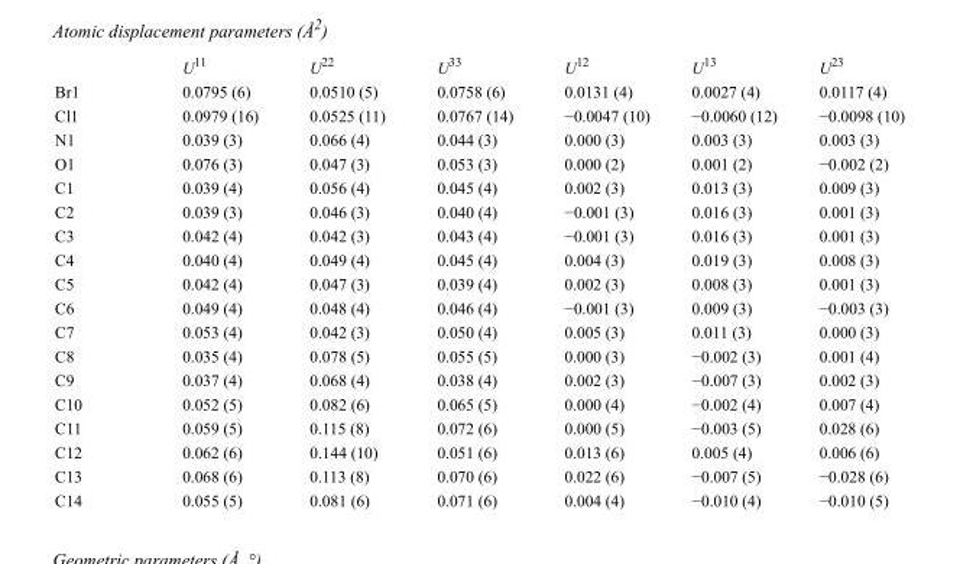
<table><thead><tr><td></td><td>U<sup>11</sup></td><td>U<sup>22</sup></td><td>U<sup>33</sup></td><td>U<sup>12</sup></td><td>U<sup>13</sup></td><td>U<sup>23</sup></td></tr></thead><tbody><tr><td>Br1</td><td>0.0795 (6)</td><td>0.0510 (5)</td><td>0.0758 (6)</td><td>0.0131 (4)</td><td>0.0027 (4)</td><td>0.0117 (4)</td></tr><tr><td>Cl1</td><td>0.0979 (16)</td><td>0.0525 (11)</td><td>0.0767 (14)</td><td>−0.0047 (10)</td><td>−0.0060 (12)</td><td>−0.0098 (10)</td></tr><tr><td>N1</td><td>0.039 (3)</td><td>0.066 (4)</td><td>0.044 (3)</td><td>0.000 (3)</td><td>0.003 (3)</td><td>0.003 (3)</td></tr><tr><td>O1</td><td>0.076 (3)</td><td>0.047 (3)</td><td>0.053 (3)</td><td>0.000 (2)</td><td>0.001 (2)</td><td>−0.002 (2)</td></tr><tr><td>C1</td><td>0.039 (4)</td><td>0.056 (4)</td><td>0.045 (4)</td><td>0.002 (3)</td><td>0.013 (3)</td><td>0.009 (3)</td></tr><tr><td>C2</td><td>0.039 (3)</td><td>0.046 (3)</td><td>0.040 (4)</td><td>−0.001 (3)</td><td>0.016 (3)</td><td>0.001 (3)</td></tr><tr><td>C3</td><td>0.042 (4)</td><td>0.042 (3)</td><td>0.043 (4)</td><td>−0.001 (3)</td><td>0.016 (3)</td><td>0.001 (3)</td></tr><tr><td>C4</td><td>0.040 (4)</td><td>0.049 (4)</td><td>0.045 (4)</td><td>0.004 (3)</td><td>0.019 (3)</td><td>0.008 (3)</td></tr><tr><td>C5</td><td>0.042 (4)</td><td>0.047 (3)</td><td>0.039 (4)</td><td>0.002 (3)</td><td>0.008 (3)</td><td>0.001 (3)</td></tr><tr><td>C6</td><td>0.049 (4)</td><td>0.048 (4)</td><td>0.046 (4)</td><td>−0.001 (3)</td><td>0.009 (3)</td><td>−0.003 (3)</td></tr><tr><td>C7</td><td>0.053 (4)</td><td>0.042 (3)</td><td>0.050 (4)</td><td>0.005 (3)</td><td>0.011 (3)</td><td>0.000 (3)</td></tr><tr><td>C8</td><td>0.035 (4)</td><td>0.078 (5)</td><td>0.055 (5)</td><td>0.000 (3)</td><td>−0.002 (3)</td><td>0.001 (4)</td></tr><tr><td>C9</td><td>0.037 (4)</td><td>0.068 (4)</td><td>0.038 (4)</td><td>0.002 (3)</td><td>−0.007 (3)</td><td>0.002 (3)</td></tr><tr><td>C10</td><td>0.052 (5)</td><td>0.082 (6)</td><td>0.065 (5)</td><td>0.000 (4)</td><td>−0.002 (4)</td><td>0.007 (4)</td></tr><tr><td>C11</td><td>0.059 (5)</td><td>0.115 (8)</td><td>0.072 (6)</td><td>0.000 (5)</td><td>−0.003 (5)</td><td>0.028 (6)</td></tr><tr><td>C12</td><td>0.062 (6)</td><td>0.144 (10)</td><td>0.051 (6)</td><td>0.013 (6)</td><td>0.005 (4)</td><td>0.006 (6)</td></tr><tr><td>C13</td><td>0.068 (6)</td><td>0.113 (8)</td><td>0.070 (6)</td><td>0.022 (6)</td><td>−0.007 (5)</td><td>−0.028 (6)</td></tr><tr><td>C14</td><td>0.055 (5)</td><td>0.081 (6)</td><td>0.071 (6)</td><td>0.004 (4)</td><td>−0.010 (4)</td><td>−0.010 (5)</td></tr></tbody></table>